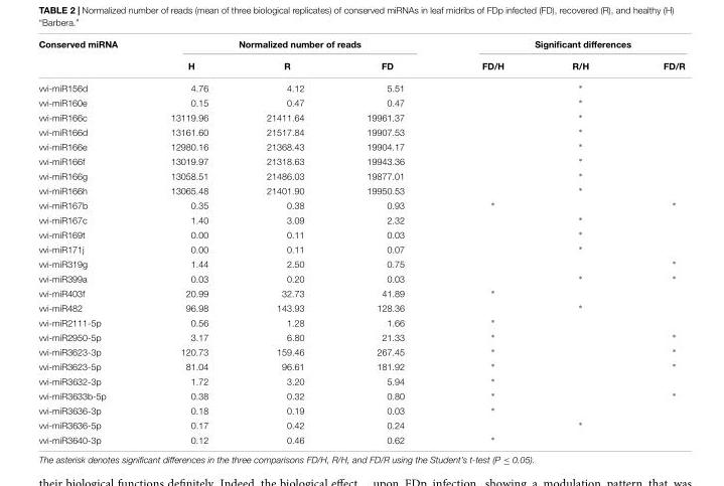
<table><thead><tr><td rowspan="2">Conserved miRNA</td><td colspan="3">Normalized number of reads</td><td colspan="3">Significant differences</td></tr><tr><td>H</td><td>R</td><td>FD</td><td>FD/H</td><td>R/H</td><td>FD/R</td></tr></thead><tbody><tr><td>vvi-miR156d</td><td>4.76</td><td>4.12</td><td>5.51</td><td></td><td>∗</td><td></td></tr><tr><td>vvi-miR160e</td><td>0.15</td><td>0.47</td><td>0.47</td><td></td><td>∗</td><td></td></tr><tr><td>vvi-miR166c</td><td>13119.96</td><td>21411.64</td><td>19961.37</td><td></td><td>∗</td><td></td></tr><tr><td>vvi-miR166d</td><td>13161.60</td><td>21517.84</td><td>19907.53</td><td></td><td>∗</td><td></td></tr><tr><td>vvi-miR166e</td><td>12980.16</td><td>21368.43</td><td>19904.17</td><td></td><td>∗</td><td></td></tr><tr><td>vvi-miR166f</td><td>13019.97</td><td>21318.63</td><td>19943.36</td><td></td><td>∗</td><td></td></tr><tr><td>vvi-miR166g</td><td>13058.51</td><td>21486.03</td><td>19877.01</td><td></td><td>∗</td><td></td></tr><tr><td>vvi-miR166h</td><td>13065.48</td><td>21401.90</td><td>19950.53</td><td></td><td>∗</td><td></td></tr><tr><td>vvi-miR167b</td><td>0.35</td><td>0.38</td><td>0.93</td><td>∗</td><td></td><td>∗</td></tr><tr><td>vvi-miR167c</td><td>1.40</td><td>3.09</td><td>2.32</td><td></td><td>∗</td><td></td></tr><tr><td>vvi-miR169t</td><td>0.00</td><td>0.11</td><td>0.03</td><td></td><td>∗</td><td></td></tr><tr><td>vvi-miR171j</td><td>0.00</td><td>0.11</td><td>0.07</td><td></td><td>∗</td><td></td></tr><tr><td>vvi-miR319g</td><td>1.44</td><td>2.50</td><td>0.75</td><td></td><td></td><td>∗</td></tr><tr><td>vvi-miR399a</td><td>0.03</td><td>0.20</td><td>0.03</td><td></td><td>∗</td><td>∗</td></tr><tr><td>vvi-miR403f</td><td>20.99</td><td>32.73</td><td>41.89</td><td>∗</td><td></td><td></td></tr><tr><td>vvi-miR482</td><td>96.98</td><td>143.93</td><td>128.36</td><td></td><td>∗</td><td></td></tr><tr><td>vvi-miR2111-5p</td><td>0.56</td><td>1.28</td><td>1.66</td><td>∗</td><td></td><td></td></tr><tr><td>vvi-miR2950-5p</td><td>3.17</td><td>6.80</td><td>21.33</td><td>∗</td><td></td><td>∗</td></tr><tr><td>vvi-miR3623-3p</td><td>120.73</td><td>159.46</td><td>267.45</td><td>∗</td><td></td><td>∗</td></tr><tr><td>vvi-miR3623-5p</td><td>81.04</td><td>96.61</td><td>181.92</td><td>∗</td><td></td><td>∗</td></tr><tr><td>vvi-miR3632-3p</td><td>1.72</td><td>3.20</td><td>5.94</td><td>∗</td><td></td><td></td></tr><tr><td>vvi-miR3633b-5p</td><td>0.38</td><td>0.32</td><td>0.80</td><td>∗</td><td></td><td>∗</td></tr><tr><td>vvi-miR3636-3p</td><td>0.18</td><td>0.19</td><td>0.03</td><td>∗</td><td></td><td></td></tr><tr><td>vvi-miR3636-5p</td><td>0.17</td><td>0.42</td><td>0.24</td><td></td><td>∗</td><td></td></tr><tr><td>vvi-miR3640-3p</td><td>0.12</td><td>0.46</td><td>0.62</td><td>∗</td><td></td><td></td></tr></tbody></table>